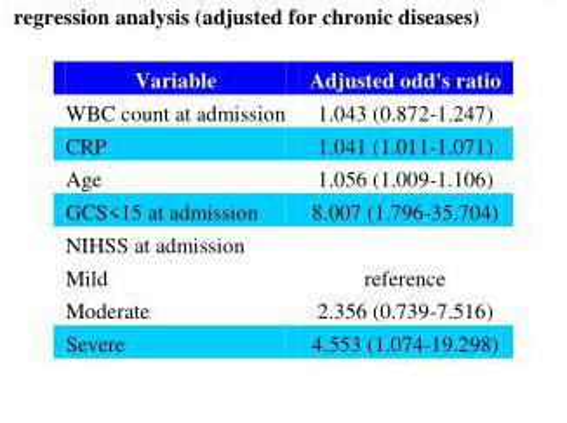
<table><thead><tr><td>Variable</td><td>Adjusted odd&#x27;s ratio</td></tr></thead><tbody><tr><td>WBC count at admission</td><td>1.043 (0.872-1.247)</td></tr><tr><td>CRP</td><td>1.041 (1.011-1.071)</td></tr><tr><td>Age</td><td>1.056 (1.009-1.106)</td></tr><tr><td>GCS&lt;15 at admission</td><td>8.007 (1.796-35.704)</td></tr><tr><td colspan="2">NIHSS at admission</td></tr><tr><td>Mild</td><td>reference</td></tr><tr><td>Moderate</td><td>2.356 (0.739-7.516)</td></tr><tr><td>Severe</td><td>4.553 (1.074-19.298)</td></tr></tbody></table>